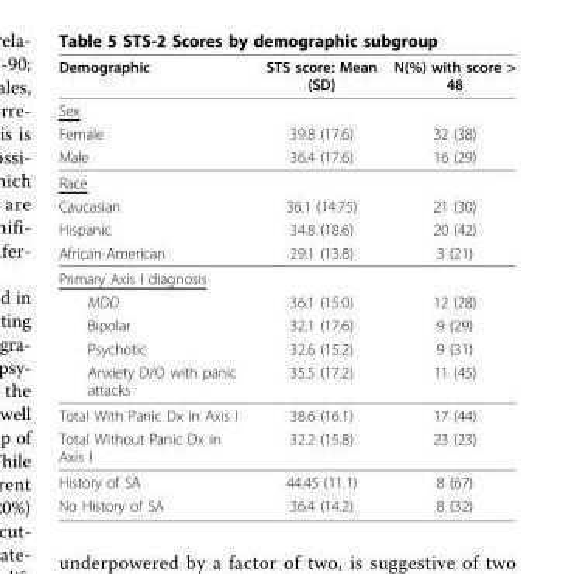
<table><thead><tr><td>Demographic</td><td>STS score: Mean (SD)</td><td>N(%) with score &gt; 48</td></tr></thead><tbody><tr><td colspan="3">Sex</td></tr><tr><td>Female</td><td>39.8 (17.6)</td><td>32 (38)</td></tr><tr><td>Male</td><td>36.4 (17.6)</td><td>16 (29)</td></tr><tr><td colspan="3">Race</td></tr><tr><td>Caucasian</td><td>36.1 (14.75)</td><td>21 (30)</td></tr><tr><td>Hispanic</td><td>34.8 (18.6)</td><td>20 (42)</td></tr><tr><td>African-American</td><td>29.1 (13.8)</td><td>3 (21)</td></tr><tr><td colspan="3">Primary Axis I diagnosis</td></tr><tr><td>MDD</td><td>36.1 (15.0)</td><td>12 (28)</td></tr><tr><td>Bipolar</td><td>32.1 (17.6)</td><td>9 (29)</td></tr><tr><td>Psychotic</td><td>32.6 (15.2)</td><td>9 (31)</td></tr><tr><td>Anxiety D/O with panic attacks</td><td>35.5 (17.2)</td><td>11 (45)</td></tr><tr><td>Total With Panic Dx in Axis I</td><td>38.6 (16.1)</td><td>17 (44)</td></tr><tr><td>Total Without Panic Dx in Axis I</td><td>32.2 (15.8)</td><td>23 (23)</td></tr><tr><td>History of SA</td><td>44.45 (11.1)</td><td>8 (67)</td></tr><tr><td>No History of SA</td><td>36.4 (14.2)</td><td>8 (32)</td></tr></tbody></table>